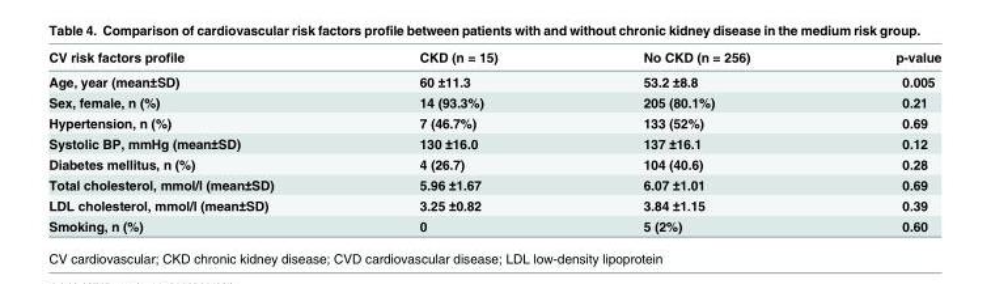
<table><thead><tr><td>CV risk factors profile</td><td>CKD (n = 15)</td><td>No CKD (n = 256)</td><td>p-value</td></tr></thead><tbody><tr><td>Age, year (mean±SD)</td><td>60 ±11.3</td><td>53.2 ±8.8</td><td>0.005</td></tr><tr><td>Sex, female, n (%)</td><td>14 (93.3%)</td><td>205 (80.1%)</td><td>0.21</td></tr><tr><td>Hypertension, n (%)</td><td>7 (46.7%)</td><td>133 (52%)</td><td>0.69</td></tr><tr><td>Systolic BP, mmHg (mean±SD)</td><td>130 ±16.0</td><td>137 ±16.1</td><td>0.12</td></tr><tr><td>Diabetes mellitus, n (%)</td><td>4 (26.7)</td><td>104 (40.6)</td><td>0.28</td></tr><tr><td>Total cholesterol, mmol/l (mean±SD)</td><td>5.96 ±1.67</td><td>6.07 ±1.01</td><td>0.69</td></tr><tr><td>LDL cholesterol, mmol/l (mean±SD)</td><td>3.25 ±0.82</td><td>3.84 ±1.15</td><td>0.39</td></tr><tr><td>Smoking, n (%)</td><td>0</td><td>5 (2%)</td><td>0.60</td></tr></tbody></table>